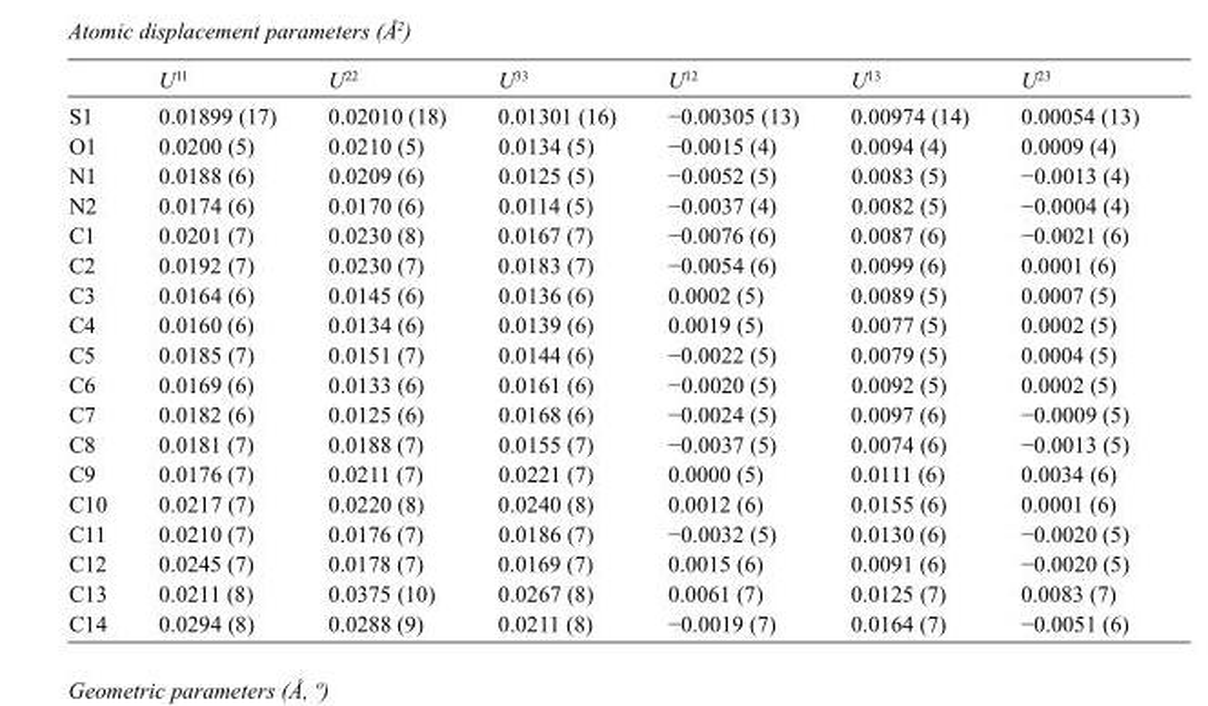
<table><thead><tr><td></td><td>U<sup>11</sup></td><td>U<sup>22</sup></td><td>U<sup>33</sup></td><td>U<sup>12</sup></td><td>U<sup>13</sup></td><td>U<sup>23</sup></td></tr></thead><tbody><tr><td>S1</td><td>0.01899 (17)</td><td>0.02010 (18)</td><td>0.01301 (16)</td><td>−0.00305 (13)</td><td>0.00974 (14)</td><td>0.00054 (13)</td></tr><tr><td>O1</td><td>0.0200 (5)</td><td>0.0210 (5)</td><td>0.0134 (5)</td><td>−0.0015 (4)</td><td>0.0094 (4)</td><td>0.0009 (4)</td></tr><tr><td>N1</td><td>0.0188 (6)</td><td>0.0209 (6)</td><td>0.0125 (5)</td><td>−0.0052 (5)</td><td>0.0083 (5)</td><td>−0.0013 (4)</td></tr><tr><td>N2</td><td>0.0174 (6)</td><td>0.0170 (6)</td><td>0.0114 (5)</td><td>−0.0037 (4)</td><td>0.0082 (5)</td><td>−0.0004 (4)</td></tr><tr><td>C1</td><td>0.0201 (7)</td><td>0.0230 (8)</td><td>0.0167 (7)</td><td>−0.0076 (6)</td><td>0.0087 (6)</td><td>−0.0021 (6)</td></tr><tr><td>C2</td><td>0.0192 (7)</td><td>0.0230 (7)</td><td>0.0183 (7)</td><td>−0.0054 (6)</td><td>0.0099 (6)</td><td>0.0001 (6)</td></tr><tr><td>C3</td><td>0.0164 (6)</td><td>0.0145 (6)</td><td>0.0136 (6)</td><td>0.0002 (5)</td><td>0.0089 (5)</td><td>0.0007 (5)</td></tr><tr><td>C4</td><td>0.0160 (6)</td><td>0.0134 (6)</td><td>0.0139 (6)</td><td>0.0019 (5)</td><td>0.0077 (5)</td><td>0.0002 (5)</td></tr><tr><td>C5</td><td>0.0185 (7)</td><td>0.0151 (7)</td><td>0.0144 (6)</td><td>−0.0022 (5)</td><td>0.0079 (5)</td><td>0.0004 (5)</td></tr><tr><td>C6</td><td>0.0169 (6)</td><td>0.0133 (6)</td><td>0.0161 (6)</td><td>−0.0020 (5)</td><td>0.0092 (5)</td><td>0.0002 (5)</td></tr><tr><td>C7</td><td>0.0182 (6)</td><td>0.0125 (6)</td><td>0.0168 (6)</td><td>−0.0024 (5)</td><td>0.0097 (6)</td><td>−0.0009 (5)</td></tr><tr><td>C8</td><td>0.0181 (7)</td><td>0.0188 (7)</td><td>0.0155 (7)</td><td>−0.0037 (5)</td><td>0.0074 (6)</td><td>−0.0013 (5)</td></tr><tr><td>C9</td><td>0.0176 (7)</td><td>0.0211 (7)</td><td>0.0221 (7)</td><td>0.0000 (5)</td><td>0.0111 (6)</td><td>0.0034 (6)</td></tr><tr><td>C10</td><td>0.0217 (7)</td><td>0.0220 (8)</td><td>0.0240 (8)</td><td>0.0012 (6)</td><td>0.0155 (6)</td><td>0.0001 (6)</td></tr><tr><td>C11</td><td>0.0210 (7)</td><td>0.0176 (7)</td><td>0.0186 (7)</td><td>−0.0032 (5)</td><td>0.0130 (6)</td><td>−0.0020 (5)</td></tr><tr><td>C12</td><td>0.0245 (7)</td><td>0.0178 (7)</td><td>0.0169 (7)</td><td>0.0015 (6)</td><td>0.0091 (6)</td><td>−0.0020 (5)</td></tr><tr><td>C13</td><td>0.0211 (8)</td><td>0.0375 (10)</td><td>0.0267 (8)</td><td>0.0061 (7)</td><td>0.0125 (7)</td><td>0.0083 (7)</td></tr><tr><td>C14</td><td>0.0294 (8)</td><td>0.0288 (9)</td><td>0.0211 (8)</td><td>−0.0019 (7)</td><td>0.0164 (7)</td><td>−0.0051 (6)</td></tr></tbody></table>